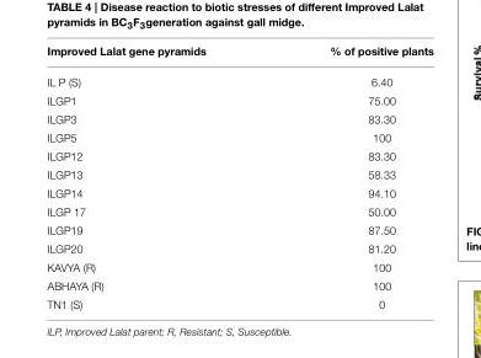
<table><thead><tr><td>Improved Lalat gene pyramids</td><td>% of positive plants</td></tr></thead><tbody><tr><td>IL P (S)</td><td>6.40</td></tr><tr><td>ILGP1</td><td>75.00</td></tr><tr><td>ILGP3</td><td>83.30</td></tr><tr><td>ILGP5</td><td>100</td></tr><tr><td>ILGP12</td><td>83.30</td></tr><tr><td>ILGP13</td><td>58.33</td></tr><tr><td>ILGP14</td><td>94.10</td></tr><tr><td>ILGP 17</td><td>50.00</td></tr><tr><td>ILGP19</td><td>87.50</td></tr><tr><td>ILGP20</td><td>81.20</td></tr><tr><td>KAVYA (R)</td><td>100</td></tr><tr><td>ABHAYA (R)</td><td>100</td></tr><tr><td>TN1 (S)</td><td>0</td></tr></tbody></table>